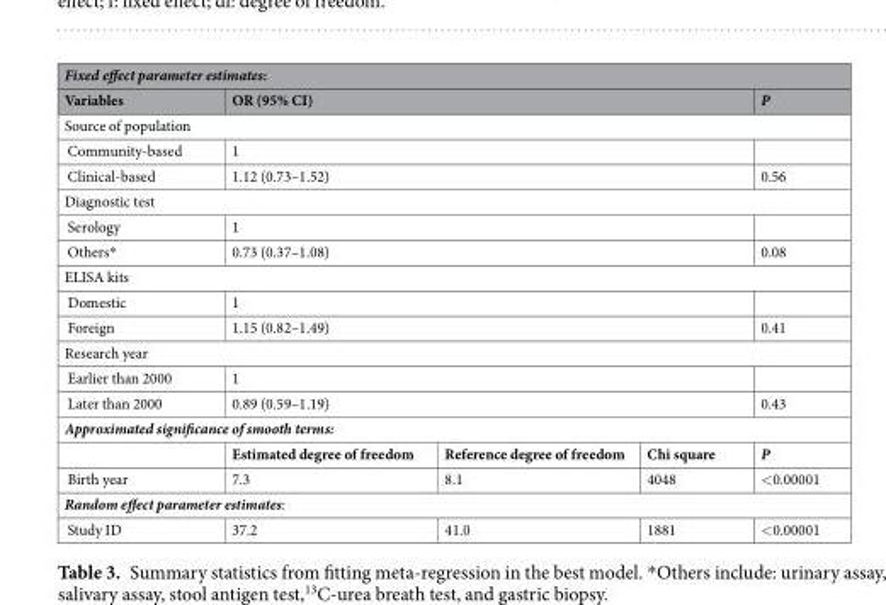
<table><thead><tr><td colspan="5">Fixed effect parameter estimates:</td></tr><tr><td>Variables</td><td colspan="3">OR (95% CI)</td><td>P</td></tr></thead><tbody><tr><td colspan="5">Source of population</td></tr><tr><td>Community-based</td><td colspan="3">1</td><td></td></tr><tr><td>Clinical-based</td><td colspan="3">1.12 (0.73–1.52)</td><td>0.56</td></tr><tr><td colspan="5">Diagnostic test</td></tr><tr><td>Serology</td><td colspan="3">1</td><td></td></tr><tr><td>Others*</td><td colspan="3">0.73 (0.37–1.08)</td><td>0.08</td></tr><tr><td colspan="5">ELISA kits</td></tr><tr><td>Domestic</td><td colspan="3">1</td><td></td></tr><tr><td>Foreign</td><td colspan="3">1.15 (0.82–1.49)</td><td>0.41</td></tr><tr><td colspan="5">Research year</td></tr><tr><td>Earlier than 2000</td><td colspan="3">1</td><td></td></tr><tr><td>Later than 2000</td><td colspan="3">0.89 (0.59–1.19)</td><td>0.43</td></tr><tr><td colspan="5">Approximated significance of smooth terms:</td></tr><tr><td></td><td>Estimated degree of freedom</td><td>Reference degree of freedom</td><td>Chi square</td><td>P</td></tr><tr><td>Birth year</td><td>7.3</td><td>8.1</td><td>4048</td><td>&lt;0.00001</td></tr><tr><td colspan="5">Random effect parameter estimates:</td></tr><tr><td>Study ID</td><td>37.2</td><td>41.0</td><td>1881</td><td>&lt;0.00001</td></tr></tbody></table>